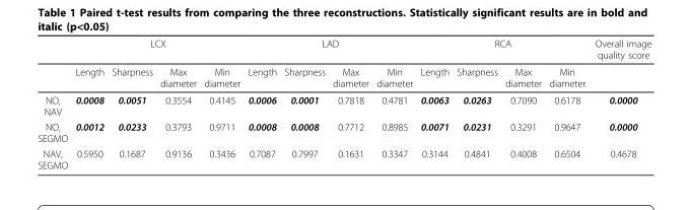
<table><thead><tr><td rowspan="2"></td><td colspan="4">LCX</td><td colspan="4">LAD</td><td colspan="4">RCA</td><td rowspan="2">Overall image quality score</td></tr><tr><td>Length</td><td>Sharpness</td><td>Max diameter</td><td>Min diameter</td><td>Length</td><td>Sharpness</td><td>Max diameter</td><td>Min diameter</td><td>Length</td><td>Sharpness</td><td>Max diameter</td><td>Min diameter</td></tr></thead><tbody><tr><td>NO, NAV</td><td>0.0008</td><td>0.0051</td><td>0.3554</td><td>0.4145</td><td>0.0006</td><td>0.0001</td><td>0.7818</td><td>0.4781</td><td>0.0063</td><td>0.0263</td><td>0.7090</td><td>0.6178</td><td>0.0000</td></tr><tr><td>NO, SEGMO</td><td>0.0012</td><td>0.0233</td><td>0.3793</td><td>0.9711</td><td>0.0008</td><td>0.0008</td><td>0.7712</td><td>0.8985</td><td>0.0071</td><td>0.0231</td><td>0.3291</td><td>0.9647</td><td>0.0000</td></tr><tr><td>NAV, SEGMO</td><td>0.5950</td><td>0.1687</td><td>0.9136</td><td>0.3436</td><td>0.7087</td><td>0.7997</td><td>0.1631</td><td>0.3347</td><td>0.3144</td><td>0.4841</td><td>0.4008</td><td>0.6504</td><td>0.4678</td></tr></tbody></table>